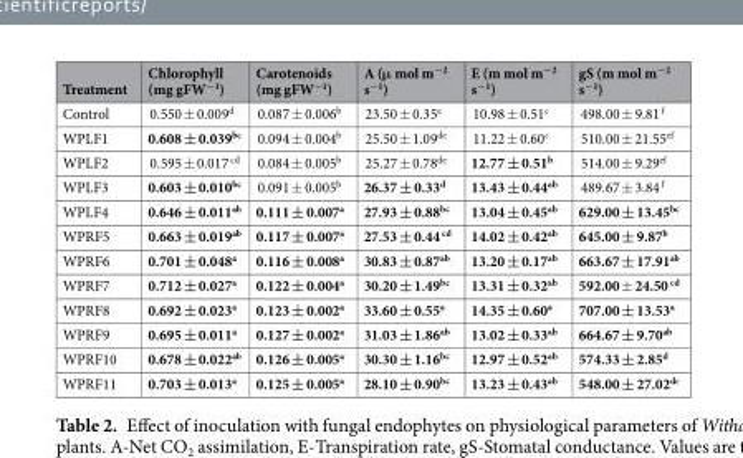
<table><thead><tr><td>Treatment</td><td>Chlorophyll (mg gFW<sup>−1</sup>)</td><td>Carotenoids (mg gFW<sup>−1</sup>)</td><td>A (μ mol m<sup>−2</sup> s<sup>−1</sup>)</td><td>E (m mol m<sup>−2</sup> s<sup>−1</sup>)</td><td>gS (m mol m<sup>−2</sup> s<sup>−1</sup>)</td></tr></thead><tbody><tr><td>Control</td><td>0.550 ± 0.009<sup>d</sup></td><td>0.087 ± 0.006<sup>b</sup></td><td>23.50 ± 0.35<sup>e</sup></td><td>10.98 ± 0.51<sup>c</sup></td><td>498.00 ± 9.81 <sup>f</sup></td></tr><tr><td>WPLF1</td><td>0.608 ± 0.039<sup>bc</sup></td><td>0.094 ± 0.004<sup>b</sup></td><td>25.50 ± 1.09<sup>de</sup></td><td>11.22 ± 0.60<sup>c</sup></td><td>510.00 ± 21.55<sup>ef</sup></td></tr><tr><td>WPLF2</td><td>0.595 ± 0.017 <sup>cd</sup></td><td>0.084 ± 0.005<sup>b</sup></td><td>25.27 ± 0.78<sup>de</sup></td><td>12.77 ± 0.51<sup>b</sup></td><td>514.00 ± 9.29<sup>ef</sup></td></tr><tr><td>WPLF3</td><td>0.603 ± 0.010<sup>bc</sup></td><td>0.091 ± 0.005<sup>b</sup></td><td>26.37 ± 0.33<sup>d</sup></td><td>13.43 ± 0.44<sup>ab</sup></td><td>489.67 ± 3.84 <sup>f</sup></td></tr><tr><td>WPLF4</td><td>0.646 ± 0.011<sup>ab</sup></td><td>0.111 ± 0.007<sup>a</sup></td><td>27.93 ± 0.88<sup>bc</sup></td><td>13.04 ± 0.45<sup>ab</sup></td><td>629.00 ± 13.45<sup>bc</sup></td></tr><tr><td>WPRF5</td><td>0.663 ± 0.019<sup>ab</sup></td><td>0.117 ± 0.007<sup>a</sup></td><td>27.53 ± 0.44 <sup>cd</sup></td><td>14.02 ± 0.42<sup>ab</sup></td><td>645.00 ± 9.87<sup>b</sup></td></tr><tr><td>WPRF6</td><td>0.701 ± 0.048<sup>a</sup></td><td>0.116 ± 0.008<sup>a</sup></td><td>30.83 ± 0.87<sup>ab</sup></td><td>13.20 ± 0.17<sup>ab</sup></td><td>663.67 ± 17.91<sup>ab</sup></td></tr><tr><td>WPRF7</td><td>0.712 ± 0.027<sup>a</sup></td><td>0.122 ± 0.004<sup>a</sup></td><td>30.20 ± 1.49<sup>bc</sup></td><td>13.31 ± 0.32<sup>ab</sup></td><td>592.00 ± 24.50 <sup>cd</sup></td></tr><tr><td>WPRF8</td><td>0.692 ± 0.023<sup>a</sup></td><td>0.123 ± 0.002<sup>a</sup></td><td>33.60 ± 0.55<sup>a</sup></td><td>14.35 ± 0.60<sup>a</sup></td><td>707.00 ± 13.53<sup>a</sup></td></tr><tr><td>WPRF9</td><td>0.695 ± 0.011<sup>a</sup></td><td>0.127 ± 0.002<sup>a</sup></td><td>31.03 ± 1.86<sup>ab</sup></td><td>13.02 ± 0.33<sup>ab</sup></td><td>664.67 ± 9.70<sup>ab</sup></td></tr><tr><td>WPRF10</td><td>0.678 ± 0.022<sup>ab</sup></td><td>0.126 ± 0.005<sup>a</sup></td><td>30.30 ± 1.16<sup>bc</sup></td><td>12.97 ± 0.52<sup>ab</sup></td><td>574.33 ± 2.85<sup>d</sup></td></tr><tr><td>WPRF11</td><td>0.703 ± 0.013<sup>a</sup></td><td>0.125 ± 0.005<sup>a</sup></td><td>28.10 ± 0.90<sup>bc</sup></td><td>13.23 ± 0.43<sup>ab</sup></td><td>548.00 ± 27.02<sup>de</sup></td></tr></tbody></table>